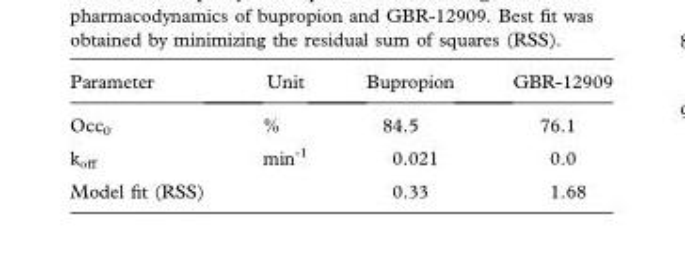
<table><thead><tr><td>Parameter</td><td>Unit</td><td>Bupropion</td><td>GBR-12909</td></tr></thead><tbody><tr><td>Occ<sub>0</sub></td><td>%</td><td>84.5</td><td>76.1</td></tr><tr><td>k<sub>off</sub></td><td>min<sup>-1</sup></td><td>0.021</td><td>0.0</td></tr><tr><td>Model fit (RSS)</td><td></td><td>0.33</td><td>1.68</td></tr></tbody></table>